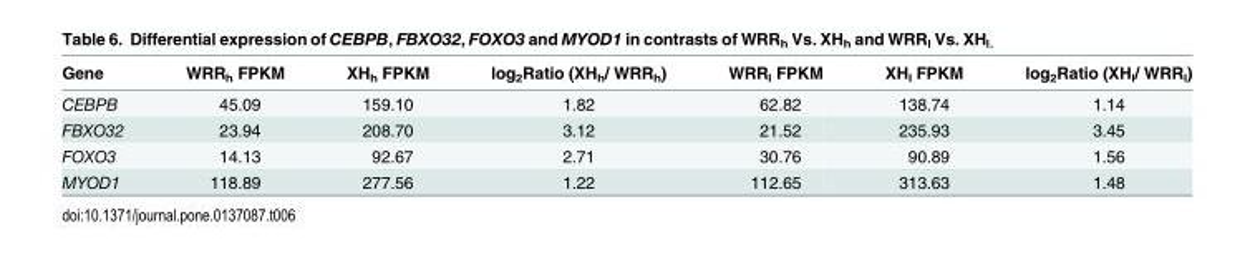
<table><thead><tr><td>Gene</td><td>WRR<sub>h</sub> FPKM</td><td>XH<sub>h</sub> FPKM</td><td>log<sub>2</sub>Ratio (XH<sub>h</sub>/ WRR<sub>h</sub>)</td><td>WRR<sub>l</sub> FPKM</td><td>XH<sub>l</sub> FPKM</td><td>log<sub>2</sub>Ratio (XH<sub>l</sub>/ WRR<sub>l</sub>)</td></tr></thead><tbody><tr><td>CEBPB</td><td>45.09</td><td>159.10</td><td>1.82</td><td>62.82</td><td>138.74</td><td>1.14</td></tr><tr><td>FBXO32</td><td>23.94</td><td>208.70</td><td>3.12</td><td>21.52</td><td>235.93</td><td>3.45</td></tr><tr><td>FOXO3</td><td>14.13</td><td>92.67</td><td>2.71</td><td>30.76</td><td>90.89</td><td>1.56</td></tr><tr><td>MYOD1</td><td>118.89</td><td>277.56</td><td>1.22</td><td>112.65</td><td>313.63</td><td>1.48</td></tr></tbody></table>